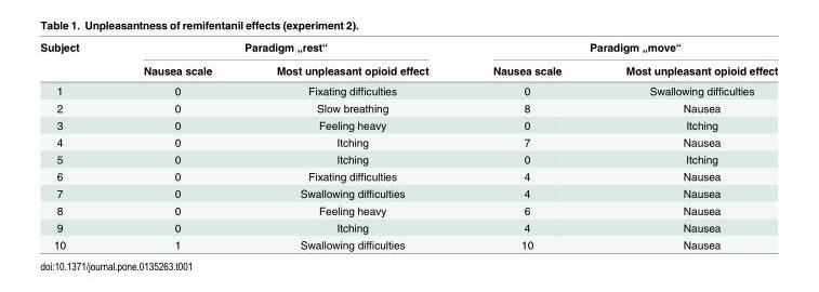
<table><thead><tr><td rowspan="2">Subject</td><td colspan="2">Paradigm „rest“</td><td colspan="2">Paradigm „move“</td></tr><tr><td>Nausea scale</td><td>Most unpleasant opioid effect</td><td>Nausea scale</td><td>Most unpleasant opioid effect</td></tr></thead><tbody><tr><td>1</td><td>0</td><td>Fixating difficulties</td><td>0</td><td>Swallowing difficulties</td></tr><tr><td>2</td><td>0</td><td>Slow breathing</td><td>8</td><td>Nausea</td></tr><tr><td>3</td><td>0</td><td>Feeling heavy</td><td>0</td><td>Itching</td></tr><tr><td>4</td><td>0</td><td>Itching</td><td>7</td><td>Nausea</td></tr><tr><td>5</td><td>0</td><td>Itching</td><td>0</td><td>Itching</td></tr><tr><td>6</td><td>0</td><td>Fixating difficulties</td><td>4</td><td>Nausea</td></tr><tr><td>7</td><td>0</td><td>Swallowing difficulties</td><td>4</td><td>Nausea</td></tr><tr><td>8</td><td>0</td><td>Feeling heavy</td><td>6</td><td>Nausea</td></tr><tr><td>9</td><td>0</td><td>Itching</td><td>4</td><td>Nausea</td></tr><tr><td>10</td><td>1</td><td>Swallowing difficulties</td><td>10</td><td>Nausea</td></tr></tbody></table>